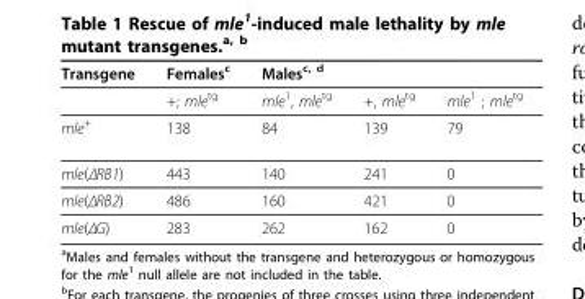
<table><thead><tr><td rowspan="2">Transgene</td><td rowspan="2">Females<sup>c</sup> +; mle<sup>tg</sup></td><td colspan="3">Males<sup>c, d</sup></td></tr><tr><td>mle<sup>1</sup>, mle<sup>tg</sup></td><td>+, mle<sup>tg</sup></td><td>mle<sup>1</sup> ; mle<sup>tg</sup></td></tr></thead><tbody><tr><td>mle<sup>+</sup></td><td>138</td><td>84</td><td>139</td><td>79</td></tr><tr><td>mle(ΔRB1)</td><td>443</td><td>140</td><td>241</td><td>0</td></tr><tr><td>mle(ΔRB2)</td><td>486</td><td>160</td><td>421</td><td>0</td></tr><tr><td>mle(ΔG)</td><td>283</td><td>262</td><td>162</td><td>0</td></tr></tbody></table>